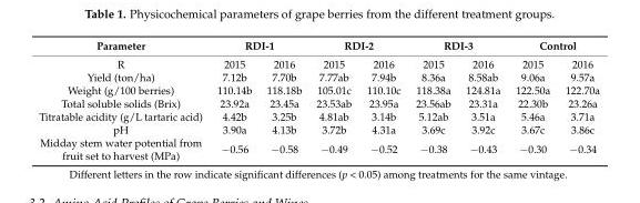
<table><thead><tr><td rowspan="2">Parameter R</td><td colspan="2">RDI-1</td><td colspan="2">RDI-2</td><td colspan="2">RDI-3</td><td colspan="2">Control</td></tr><tr><td>2015</td><td>2016</td><td>2015</td><td>2016</td><td>2015</td><td>2016</td><td>2015</td><td>2016</td></tr></thead><tbody><tr><td>Yield (ton/ha)</td><td>7.12b</td><td>7.70b</td><td>7.77ab</td><td>7.94b</td><td>8.36a</td><td>8.58ab</td><td>9.06a</td><td>9.57a</td></tr><tr><td>Weight (g/100 berries)</td><td>110.14b</td><td>118.18b</td><td>105.01c</td><td>110.10c</td><td>118.38a</td><td>124.81a</td><td>122.50a</td><td>122.70a</td></tr><tr><td>Total soluble solids (Brix)</td><td>23.92a</td><td>23.45a</td><td>23.53ab</td><td>23.95a</td><td>23.56ab</td><td>23.31a</td><td>22.30b</td><td>23.26a</td></tr><tr><td>Titratable acidity (g/L tartaric acid)</td><td>4.42b</td><td>3.25b</td><td>4.81ab</td><td>3.14b</td><td>5.12ab</td><td>3.51a</td><td>5.46a</td><td>3.71a</td></tr><tr><td>pH</td><td>3.90a</td><td>4.13b</td><td>3.72b</td><td>4.31a</td><td>3.69c</td><td>3.92c</td><td>3.67c</td><td>3.86c</td></tr><tr><td>Midday stem water potential from fruit set to harvest (MPa)</td><td>−0.56</td><td>−0.58</td><td>−0.49</td><td>−0.52</td><td>−0.38</td><td>−0.43</td><td>−0.30</td><td>−0.34</td></tr></tbody></table>